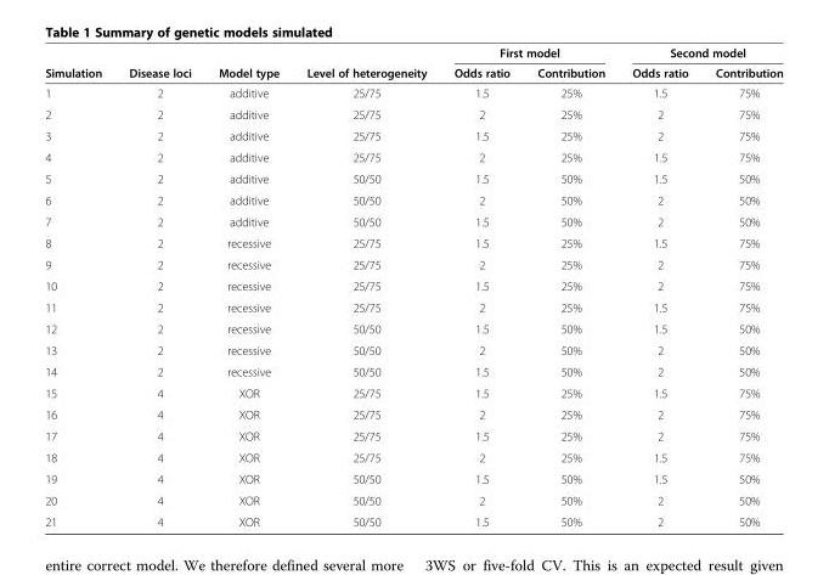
<table><thead><tr><td rowspan="2">Simulation</td><td rowspan="2">Disease loci</td><td rowspan="2">Model type</td><td rowspan="2">Level of heterogeneity</td><td colspan="2">First model</td><td colspan="2">Second model</td></tr><tr><td>Odds ratio</td><td>Contribution</td><td>Odds ratio</td><td>Contribution</td></tr></thead><tbody><tr><td>1</td><td>2</td><td>additive</td><td>25/75</td><td>1.5</td><td>25%</td><td>1.5</td><td>75%</td></tr><tr><td>2</td><td>2</td><td>additive</td><td>25/75</td><td>2</td><td>25%</td><td>2</td><td>75%</td></tr><tr><td>3</td><td>2</td><td>additive</td><td>25/75</td><td>1.5</td><td>25%</td><td>2</td><td>75%</td></tr><tr><td>4</td><td>2</td><td>additive</td><td>25/75</td><td>2</td><td>25%</td><td>1.5</td><td>75%</td></tr><tr><td>5</td><td>2</td><td>additive</td><td>50/50</td><td>1.5</td><td>50%</td><td>1.5</td><td>50%</td></tr><tr><td>6</td><td>2</td><td>additive</td><td>50/50</td><td>2</td><td>50%</td><td>2</td><td>50%</td></tr><tr><td>7</td><td>2</td><td>additive</td><td>50/50</td><td>1.5</td><td>50%</td><td>2</td><td>50%</td></tr><tr><td>8</td><td>2</td><td>recessive</td><td>25/75</td><td>1.5</td><td>25%</td><td>1.5</td><td>75%</td></tr><tr><td>9</td><td>2</td><td>recessive</td><td>25/75</td><td>2</td><td>25%</td><td>2</td><td>75%</td></tr><tr><td>10</td><td>2</td><td>recessive</td><td>25/75</td><td>1.5</td><td>25%</td><td>2</td><td>75%</td></tr><tr><td>11</td><td>2</td><td>recessive</td><td>25/75</td><td>2</td><td>25%</td><td>1.5</td><td>75%</td></tr><tr><td>12</td><td>2</td><td>recessive</td><td>50/50</td><td>1.5</td><td>50%</td><td>1.5</td><td>50%</td></tr><tr><td>13</td><td>2</td><td>recessive</td><td>50/50</td><td>2</td><td>50%</td><td>2</td><td>50%</td></tr><tr><td>14</td><td>2</td><td>recessive</td><td>50/50</td><td>1.5</td><td>50%</td><td>2</td><td>50%</td></tr><tr><td>15</td><td>4</td><td>XOR</td><td>25/75</td><td>1.5</td><td>25%</td><td>1.5</td><td>75%</td></tr><tr><td>16</td><td>4</td><td>XOR</td><td>25/75</td><td>2</td><td>25%</td><td>2</td><td>75%</td></tr><tr><td>17</td><td>4</td><td>XOR</td><td>25/75</td><td>1.5</td><td>25%</td><td>2</td><td>75%</td></tr><tr><td>18</td><td>4</td><td>XOR</td><td>25/75</td><td>2</td><td>25%</td><td>1.5</td><td>75%</td></tr><tr><td>19</td><td>4</td><td>XOR</td><td>50/50</td><td>1.5</td><td>50%</td><td>1.5</td><td>50%</td></tr><tr><td>20</td><td>4</td><td>XOR</td><td>50/50</td><td>2</td><td>50%</td><td>2</td><td>50%</td></tr><tr><td>21</td><td>4</td><td>XOR</td><td>50/50</td><td>1.5</td><td>50%</td><td>2</td><td>50%</td></tr></tbody></table>